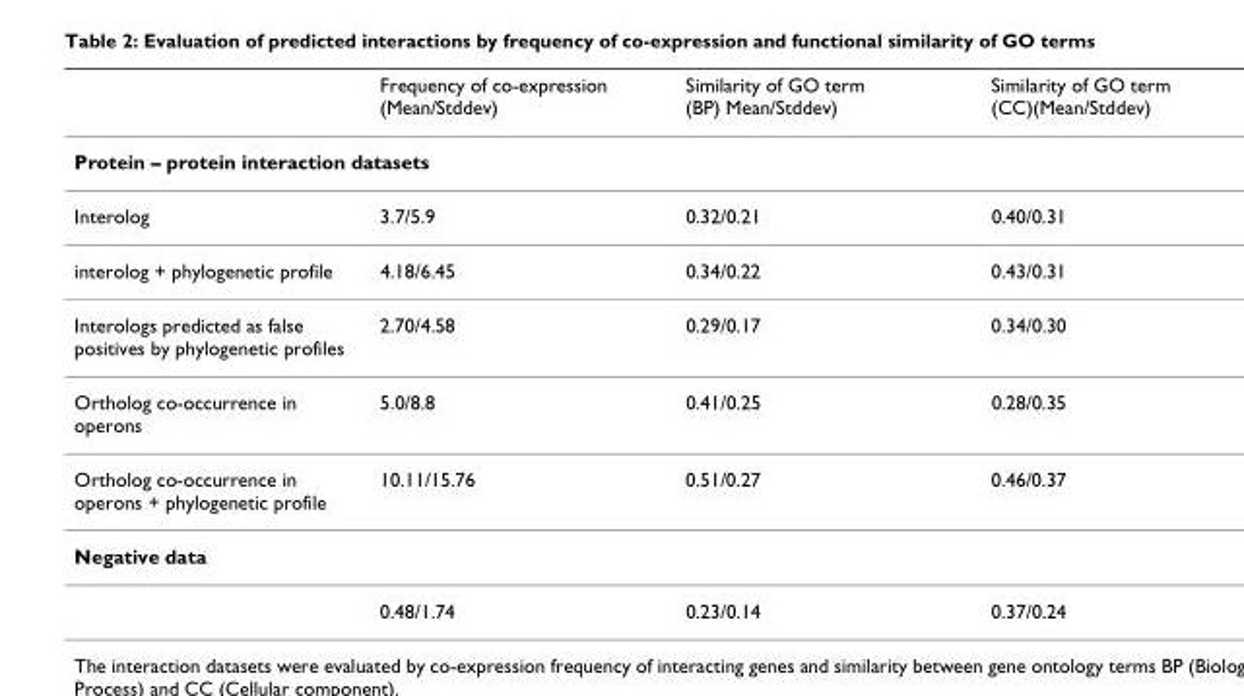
<table><thead><tr><td></td><td>Frequency of co-expression (Mean/Stddev)</td><td>Similarity of GO term (BP) Mean/Stddev)</td><td>Similarity of GO term (CC)(Mean/Stddev)</td></tr></thead><tbody><tr><td colspan="4">Protein – protein interaction datasets</td></tr><tr><td>Interolog</td><td>3.7/5.9</td><td>0.32/0.21</td><td>0.40/0.31</td></tr><tr><td>interolog + phylogenetic profile</td><td>4.18/6.45</td><td>0.34/0.22</td><td>0.43/0.31</td></tr><tr><td>Interologs predicted as false positives by phylogenetic profiles</td><td>2.70/4.58</td><td>0.29/0.17</td><td>0.34/0.30</td></tr><tr><td>Ortholog co-occurrence in operons</td><td>5.0/8.8</td><td>0.41/0.25</td><td>0.28/0.35</td></tr><tr><td>Ortholog co-occurrence in operons + phylogenetic profile</td><td>10.11/15.76</td><td>0.51/0.27</td><td>0.46/0.37</td></tr><tr><td colspan="4">Negative data</td></tr><tr><td></td><td>0.48/1.74</td><td>0.23/0.14</td><td>0.37/0.24</td></tr></tbody></table>